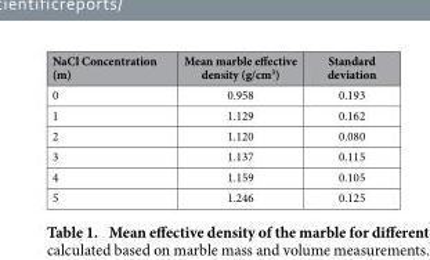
<table><thead><tr><td>NaCl Concentration (m)</td><td>Mean marble effective density (g/cm<sup>3</sup>)</td><td>Standard deviation</td></tr></thead><tbody><tr><td>0</td><td>0.958</td><td>0.193</td></tr><tr><td>1</td><td>1.129</td><td>0.162</td></tr><tr><td>2</td><td>1.120</td><td>0.080</td></tr><tr><td>3</td><td>1.137</td><td>0.115</td></tr><tr><td>4</td><td>1.159</td><td>0.105</td></tr><tr><td>5</td><td>1.246</td><td>0.125</td></tr></tbody></table>